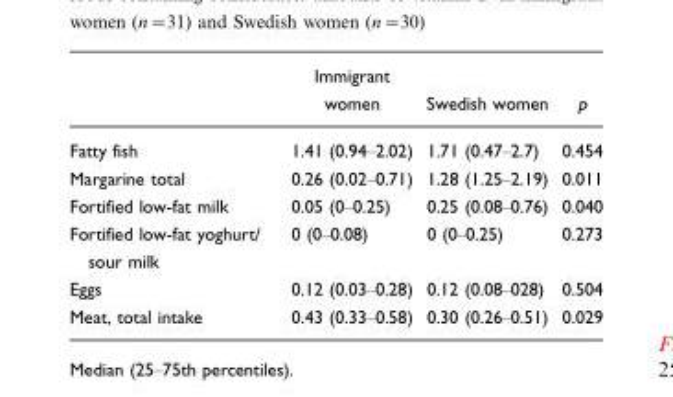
<table><thead><tr><td></td><td>Immigrant women</td><td>Swedish women</td><td>p</td></tr></thead><tbody><tr><td>Fatty fish</td><td>1.41 (0.94–2.02)</td><td>1.71 (0.47–2.7)</td><td>0.454</td></tr><tr><td>Margarine total</td><td>0.26 (0.02–0.71)</td><td>1.28 (1.25–2.19)</td><td>0.011</td></tr><tr><td>Fortified low-fat milk</td><td>0.05 (0–0.25)</td><td>0.25 (0.08–0.76)</td><td>0.040</td></tr><tr><td>Fortified low-fat yoghurt/ sour milk</td><td>0 (0–0.08)</td><td>0 (0–0.25)</td><td>0.273</td></tr><tr><td>Eggs</td><td>0.12 (0.03–0.28)</td><td>0.12 (0.08–028)</td><td>0.504</td></tr><tr><td>Meat, total intake</td><td>0.43 (0.33–0.58)</td><td>0.30 (0.26–0.51)</td><td>0.029</td></tr></tbody></table>